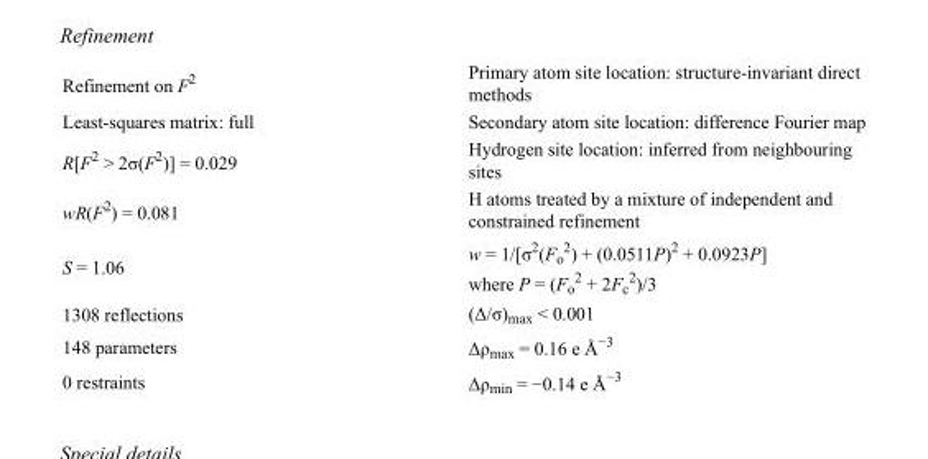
<table><tbody><tr><td>Refinement on F<sup>2</sup></td><td>Primary atom site location: structure-invariant direct methods</td></tr><tr><td>Least-squares matrix: full</td><td>Secondary atom site location: difference Fourier map</td></tr><tr><td>R[F<sup>2</sup> &gt; 2σ(F<sup>2</sup>)] = 0.029</td><td>Hydrogen site location: inferred from neighbouring sites</td></tr><tr><td>wR(F<sup>2</sup>) = 0.081</td><td>H atoms treated by a mixture of independent and constrained refinement</td></tr><tr><td>S = 1.06</td><td>w = 1/[σ<sup>2</sup>(F<sub>o</sub> <sup>2</sup>) + (0.0511P)<sup>2</sup> + 0.0923P] where P = (F<sub>o</sub> <sup>2</sup> + 2F<sub>c</sub> <sup>2</sup>)/3</td></tr><tr><td>1308 reflections</td><td>(Δ/σ)<sub>max</sub> &lt; 0.001</td></tr><tr><td>148 parameters</td><td>Δρ<sub>max</sub> = 0.16 e Å<sup>−3</sup></td></tr><tr><td>0 restraints</td><td>Δρ<sub>min</sub> = −0.14 e Å<sup>−3</sup></td></tr></tbody></table>